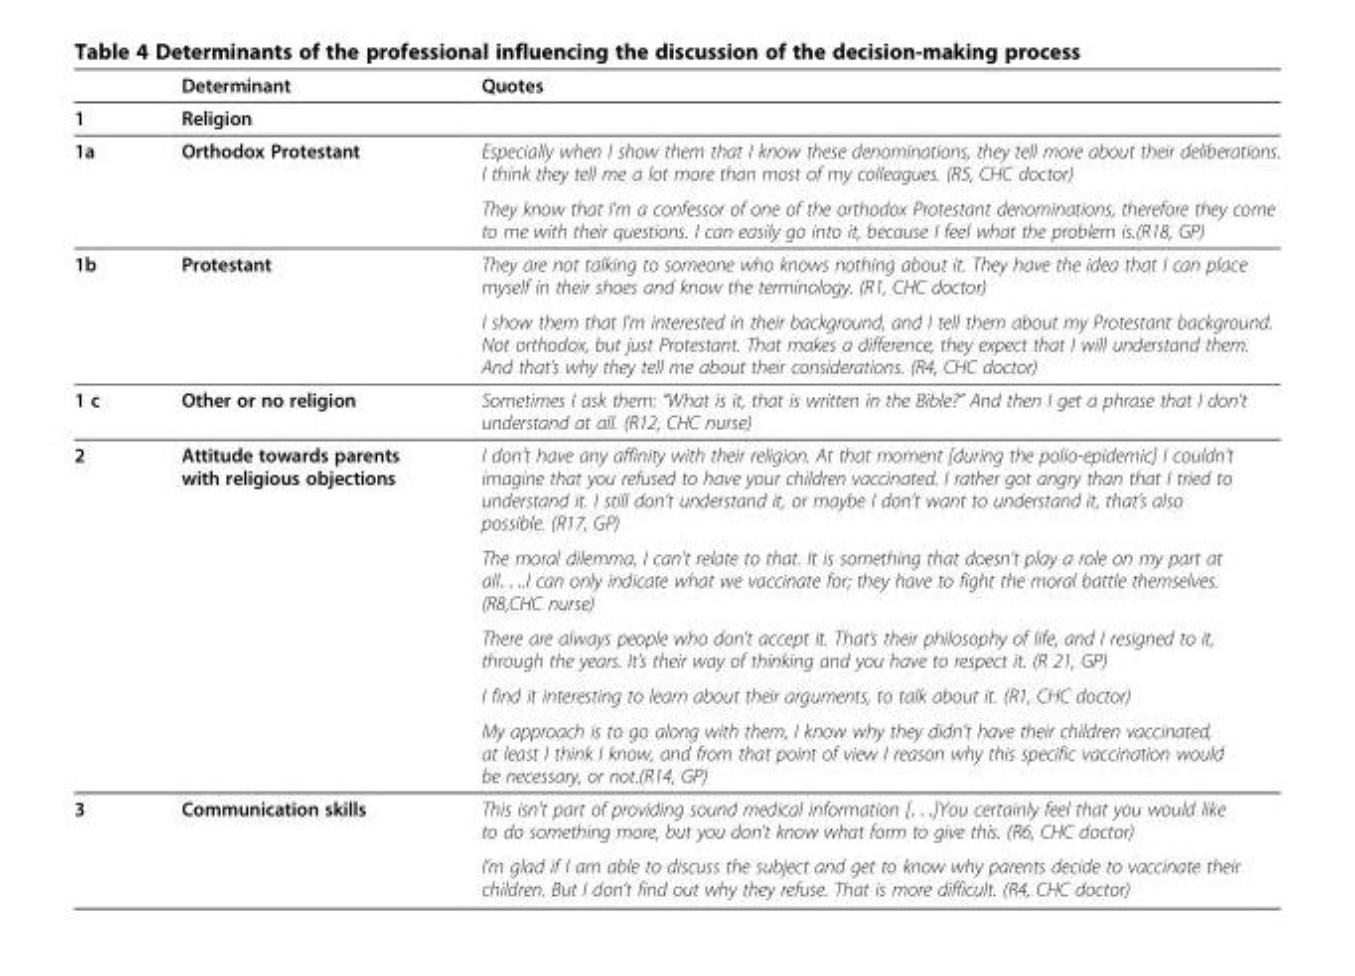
<table><thead><tr><td></td><td>Determinant</td><td>Quotes</td></tr></thead><tbody><tr><td>1</td><td>Religion</td><td></td></tr><tr><td rowspan="2">1a</td><td>Orthodox Protestant</td><td>Especially when I show them that I know these denominations, they tell more about their deliberations. I think they tell me a lot more than most of my colleagues. (R5, CHC doctor)</td></tr><tr><td></td><td>They know that I’m a confessor of one of the orthodox Protestant denominations, therefore they come to me with their questions. I can easily go into it, because I feel what the problem is.(R18, GP)</td></tr><tr><td rowspan="2">1b</td><td>Protestant</td><td>They are not talking to someone who knows nothing about it. They have the idea that I can place myself in their shoes and know the terminology. (R1, CHC doctor)</td></tr><tr><td></td><td>I show them that I’m interested in their background, and I tell them about my Protestant background. Not orthodox, but just Protestant. That makes a difference, they expect that I will understand them. And that’s why they tell me about their considerations. (R4, CHC doctor)</td></tr><tr><td>1 c</td><td>Other or no religion</td><td>Sometimes I ask them: “What is it, that is written in the Bible?” And then I get a phrase that I don’t understand at all. (R12, CHC nurse)</td></tr><tr><td rowspan="5">2</td><td>Attitude towards parents with religious objections</td><td>I don’t have any affinity with their religion. At that moment [during the polio-epidemic] I couldn’t imagine that you refused to have your children vaccinated. I rather got angry than that I tried to understand it. I still don’t understand it, or maybe I don’t want to understand it, that’s also possible. (R17, GP)</td></tr><tr><td></td><td>The moral dilemma, I can’t relate to that. It is something that doesn’t play a role on my part at all. . ..I can only indicate what we vaccinate for; they have to fight the moral battle themselves. (R8,CHC nurse)</td></tr><tr><td></td><td>There are always people who don’t accept it. That’s their philosophy of life, and I resigned to it, through the years. It’s their way of thinking and you have to respect it. (R 21, GP)</td></tr><tr><td></td><td>I find it interesting to learn about their arguments, to talk about it. (R1, CHC doctor)</td></tr><tr><td></td><td>My approach is to go along with them, I know why they didn’t have their children vaccinated, at least I think I know, and from that point of view I reason why this specific vaccination would be necessary, or not.(R14, GP)</td></tr><tr><td rowspan="2">3</td><td>Communication skills</td><td>This isn’t part of providing sound medical information [. . .]You certainly feel that you would like to do something more, but you don’t know what form to give this. (R6, CHC doctor)</td></tr><tr><td></td><td>I’m glad if I am able to discuss the subject and get to know why parents decide to vaccinate their children. But I don’t find out why they refuse. That is more difficult. (R4, CHC doctor)</td></tr></tbody></table>